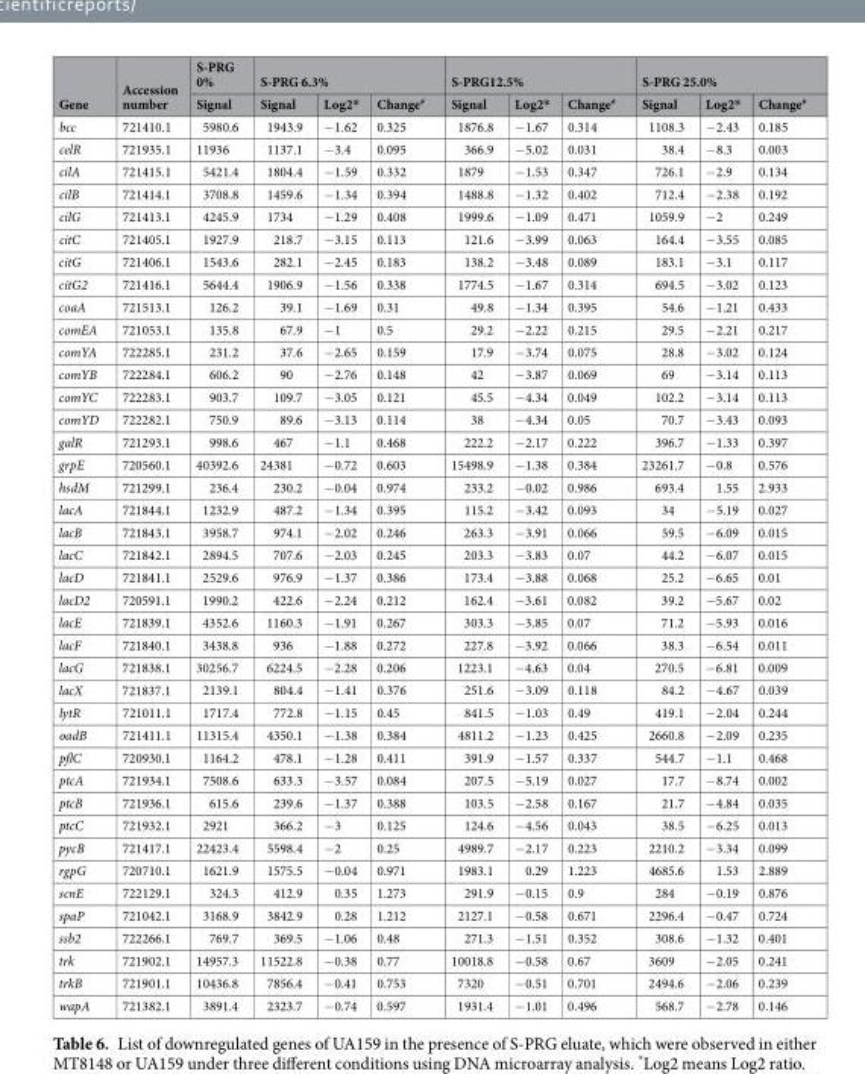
<table><thead><tr><td rowspan="2">Gene</td><td rowspan="2">Accession number</td><td rowspan="2">S-PRG 0% Signal</td><td colspan="3">S-PRG 6.3%</td><td colspan="3">S-PRG12.5%</td><td colspan="3">S-PRG 25.0%</td></tr><tr><td>Signal</td><td>Log2*</td><td>Change<sup>#</sup></td><td>Signal</td><td>Log2*</td><td>Change<sup>#</sup></td><td>Signal</td><td>Log2*</td><td>Change<sup>#</sup></td></tr></thead><tbody><tr><td>bcc</td><td>721410.1</td><td>5980.6</td><td>1943.9</td><td>−1.62</td><td>0.325</td><td>1876.8</td><td>−1.67</td><td>0.314</td><td>1108.3</td><td>−2.43</td><td>0.185</td></tr><tr><td>celR</td><td>721935.1</td><td>11936</td><td>1137.1</td><td>−3.4</td><td>0.095</td><td>366.9</td><td>−5.02</td><td>0.031</td><td>38.4</td><td>−8.3</td><td>0.003</td></tr><tr><td>cilA</td><td>721415.1</td><td>5421.4</td><td>1804.4</td><td>−1.59</td><td>0.332</td><td>1879</td><td>−1.53</td><td>0.347</td><td>726.1</td><td>−2.9</td><td>0.134</td></tr><tr><td>cilB</td><td>721414.1</td><td>3708.8</td><td>1459.6</td><td>−1.34</td><td>0.394</td><td>1488.8</td><td>−1.32</td><td>0.402</td><td>712.4</td><td>−2.38</td><td>0.192</td></tr><tr><td>cilG</td><td>721413.1</td><td>4245.9</td><td>1734</td><td>−1.29</td><td>0.408</td><td>1999.6</td><td>−1.09</td><td>0.471</td><td>1059.9</td><td>−2</td><td>0.249</td></tr><tr><td>citC</td><td>721405.1</td><td>1927.9</td><td>218.7</td><td>−3.15</td><td>0.113</td><td>121.6</td><td>−3.99</td><td>0.063</td><td>164.4</td><td>−3.55</td><td>0.085</td></tr><tr><td>citG</td><td>721406.1</td><td>1543.6</td><td>282.1</td><td>−2.45</td><td>0.183</td><td>138.2</td><td>−3.48</td><td>0.089</td><td>183.1</td><td>−3.1</td><td>0.117</td></tr><tr><td>citG2</td><td>721416.1</td><td>5644.4</td><td>1906.9</td><td>−1.56</td><td>0.338</td><td>1774.5</td><td>−1.67</td><td>0.314</td><td>694.5</td><td>−3.02</td><td>0.123</td></tr><tr><td>coaA</td><td>721513.1</td><td>126.2</td><td>39.1</td><td>−1.69</td><td>0.31</td><td>49.8</td><td>−1.34</td><td>0.395</td><td>54.6</td><td>−1.21</td><td>0.433</td></tr><tr><td>comEA</td><td>721053.1</td><td>135.8</td><td>67.9</td><td>−1</td><td>0.5</td><td>29.2</td><td>−2.22</td><td>0.215</td><td>29.5</td><td>−2.21</td><td>0.217</td></tr><tr><td>comYA</td><td>722285.1</td><td>231.2</td><td>37.6</td><td>−2.65</td><td>0.159</td><td>17.9</td><td>−3.74</td><td>0.075</td><td>28.8</td><td>−3.02</td><td>0.124</td></tr><tr><td>comYB</td><td>722284.1</td><td>606.2</td><td>90</td><td>−2.76</td><td>0.148</td><td>42</td><td>−3.87</td><td>0.069</td><td>69</td><td>−3.14</td><td>0.113</td></tr><tr><td>comYC</td><td>722283.1</td><td>903.7</td><td>109.7</td><td>−3.05</td><td>0.121</td><td>45.5</td><td>−4.34</td><td>0.049</td><td>102.2</td><td>−3.14</td><td>0.113</td></tr><tr><td>comYD</td><td>722282.1</td><td>750.9</td><td>89.6</td><td>−3.13</td><td>0.114</td><td>38</td><td>−4.34</td><td>0.05</td><td>70.7</td><td>−3.43</td><td>0.093</td></tr><tr><td>galR</td><td>721293.1</td><td>998.6</td><td>467</td><td>−1.1</td><td>0.468</td><td>222.2</td><td>−2.17</td><td>0.222</td><td>396.7</td><td>−1.33</td><td>0.397</td></tr><tr><td>grpE</td><td>720560.1</td><td>40392.6</td><td>24381</td><td>−0.72</td><td>0.603</td><td>15498.9</td><td>−1.38</td><td>0.384</td><td>23261.7</td><td>−0.8</td><td>0.576</td></tr><tr><td>hsdM</td><td>721299.1</td><td>236.4</td><td>230.2</td><td>−0.04</td><td>0.974</td><td>233.2</td><td>−0.02</td><td>0.986</td><td>693.4</td><td>1.55</td><td>2.933</td></tr><tr><td>lacA</td><td>721844.1</td><td>1232.9</td><td>487.2</td><td>−1.34</td><td>0.395</td><td>115.2</td><td>−3.42</td><td>0.093</td><td>34</td><td>−5.19</td><td>0.027</td></tr><tr><td>lacB</td><td>721843.1</td><td>3958.7</td><td>974.1</td><td>−2.02</td><td>0.246</td><td>263.3</td><td>−3.91</td><td>0.066</td><td>59.5</td><td>−6.09</td><td>0.015</td></tr><tr><td>lacC</td><td>721842.1</td><td>2894.5</td><td>707.6</td><td>−2.03</td><td>0.245</td><td>203.3</td><td>−3.83</td><td>0.07</td><td>44.2</td><td>−6.07</td><td>0.015</td></tr><tr><td>lacD</td><td>721841.1</td><td>2529.6</td><td>976.9</td><td>−1.37</td><td>0.386</td><td>173.4</td><td>−3.88</td><td>0.068</td><td>25.2</td><td>−6.65</td><td>0.01</td></tr><tr><td>lacD2</td><td>720591.1</td><td>1990.2</td><td>422.6</td><td>−2.24</td><td>0.212</td><td>162.4</td><td>−3.61</td><td>0.082</td><td>39.2</td><td>−5.67</td><td>0.02</td></tr><tr><td>lacE</td><td>721839.1</td><td>4352.6</td><td>1160.3</td><td>−1.91</td><td>0.267</td><td>303.3</td><td>−3.85</td><td>0.07</td><td>71.2</td><td>−5.93</td><td>0.016</td></tr><tr><td>lacF</td><td>721840.1</td><td>3438.8</td><td>936</td><td>−1.88</td><td>0.272</td><td>227.8</td><td>−3.92</td><td>0.066</td><td>38.3</td><td>−6.54</td><td>0.011</td></tr><tr><td>lacG</td><td>721838.1</td><td>30256.7</td><td>6224.5</td><td>−2.28</td><td>0.206</td><td>1223.1</td><td>−4.63</td><td>0.04</td><td>270.5</td><td>−6.81</td><td>0.009</td></tr><tr><td>lacX</td><td>721837.1</td><td>2139.1</td><td>804.4</td><td>−1.41</td><td>0.376</td><td>251.6</td><td>−3.09</td><td>0.118</td><td>84.2</td><td>−4.67</td><td>0.039</td></tr><tr><td>lytR</td><td>721011.1</td><td>1717.4</td><td>772.8</td><td>−1.15</td><td>0.45</td><td>841.5</td><td>−1.03</td><td>0.49</td><td>419.1</td><td>−2.04</td><td>0.244</td></tr><tr><td>oadB</td><td>721411.1</td><td>11315.4</td><td>4350.1</td><td>−1.38</td><td>0.384</td><td>4811.2</td><td>−1.23</td><td>0.425</td><td>2660.8</td><td>−2.09</td><td>0.235</td></tr><tr><td>pflC</td><td>720930.1</td><td>1164.2</td><td>478.1</td><td>−1.28</td><td>0.411</td><td>391.9</td><td>−1.57</td><td>0.337</td><td>544.7</td><td>−1.1</td><td>0.468</td></tr><tr><td>ptcA</td><td>721934.1</td><td>7508.6</td><td>633.3</td><td>−3.57</td><td>0.084</td><td>207.5</td><td>−5.19</td><td>0.027</td><td>17.7</td><td>−8.74</td><td>0.002</td></tr><tr><td>ptcB</td><td>721936.1</td><td>615.6</td><td>239.6</td><td>−1.37</td><td>0.388</td><td>103.5</td><td>−2.58</td><td>0.167</td><td>21.7</td><td>−4.84</td><td>0.035</td></tr><tr><td>ptcC</td><td>721932.1</td><td>2921</td><td>366.2</td><td>−3</td><td>0.125</td><td>124.6</td><td>−4.56</td><td>0.043</td><td>38.5</td><td>−6.25</td><td>0.013</td></tr><tr><td>pycB</td><td>721417.1</td><td>22423.4</td><td>5598.4</td><td>−2</td><td>0.25</td><td>4989.7</td><td>−2.17</td><td>0.223</td><td>2210.2</td><td>−3.34</td><td>0.099</td></tr><tr><td>rgpG</td><td>720710.1</td><td>1621.9</td><td>1575.5</td><td>−0.04</td><td>0.971</td><td>1983.1</td><td>0.29</td><td>1.223</td><td>4685.6</td><td>1.53</td><td>2.889</td></tr><tr><td>scnE</td><td>722129.1</td><td>324.3</td><td>412.9</td><td>0.35</td><td>1.273</td><td>291.9</td><td>−0.15</td><td>0.9</td><td>284</td><td>−0.19</td><td>0.876</td></tr><tr><td>spaP</td><td>721042.1</td><td>3168.9</td><td>3842.9</td><td>0.28</td><td>1.212</td><td>2127.1</td><td>−0.58</td><td>0.671</td><td>2296.4</td><td>−0.47</td><td>0.724</td></tr><tr><td>ssb2</td><td>722266.1</td><td>769.7</td><td>369.5</td><td>−1.06</td><td>0.48</td><td>271.3</td><td>−1.51</td><td>0.352</td><td>308.6</td><td>−1.32</td><td>0.401</td></tr><tr><td>trk</td><td>721902.1</td><td>14957.3</td><td>11522.8</td><td>−0.38</td><td>0.77</td><td>10018.8</td><td>−0.58</td><td>0.67</td><td>3609</td><td>−2.05</td><td>0.241</td></tr><tr><td>trkB</td><td>721901.1</td><td>10436.8</td><td>7856.4</td><td>−0.41</td><td>0.753</td><td>7320</td><td>−0.51</td><td>0.701</td><td>2494.6</td><td>−2.06</td><td>0.239</td></tr><tr><td>wapA</td><td>721382.1</td><td>3891.4</td><td>2323.7</td><td>−0.74</td><td>0.597</td><td>1931.4</td><td>−1.01</td><td>0.496</td><td>568.7</td><td>−2.78</td><td>0.146</td></tr></tbody></table>